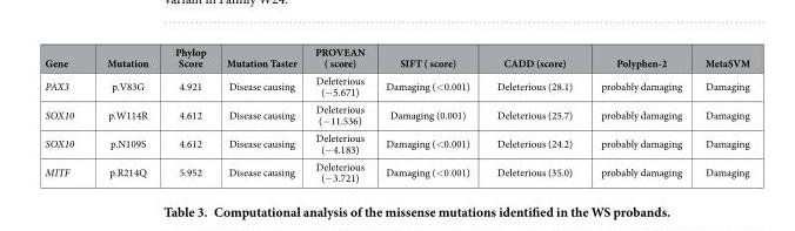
<table><thead><tr><td>Gene</td><td>Mutation</td><td>Phylop Score</td><td>Mutation Taster</td><td>PROVEAN ( score)</td><td>SIFT ( score)</td><td>CADD (score)</td><td>Polyphen-2</td><td>MetaSVM</td></tr></thead><tbody><tr><td>PAX3</td><td>p.V83G</td><td>4.921</td><td>Disease causing</td><td>Deleterious (− 5.671)</td><td>Damaging (&lt; 0.001)</td><td>Deleterious (28.1)</td><td>probably damaging</td><td>Damaging</td></tr><tr><td>SOX10</td><td>p.W114R</td><td>4.612</td><td>Disease causing</td><td>Deleterious (− 11.536)</td><td>Damaging (0.001)</td><td>Deleterious (25.7)</td><td>probably damaging</td><td>Damaging</td></tr><tr><td>SOX10</td><td>p.N109S</td><td>4.612</td><td>Disease causing</td><td>Deleterious (− 4.183)</td><td>Damaging (&lt; 0.001)</td><td>Deleterious (24.2)</td><td>probably damaging</td><td>Damaging</td></tr><tr><td>MITF</td><td>p.R214Q</td><td>5.952</td><td>Disease causing</td><td>Deleterious (− 3.721)</td><td>Damaging (&lt; 0.001)</td><td>Deleterious (35.0)</td><td>probably damaging</td><td>Damaging</td></tr></tbody></table>